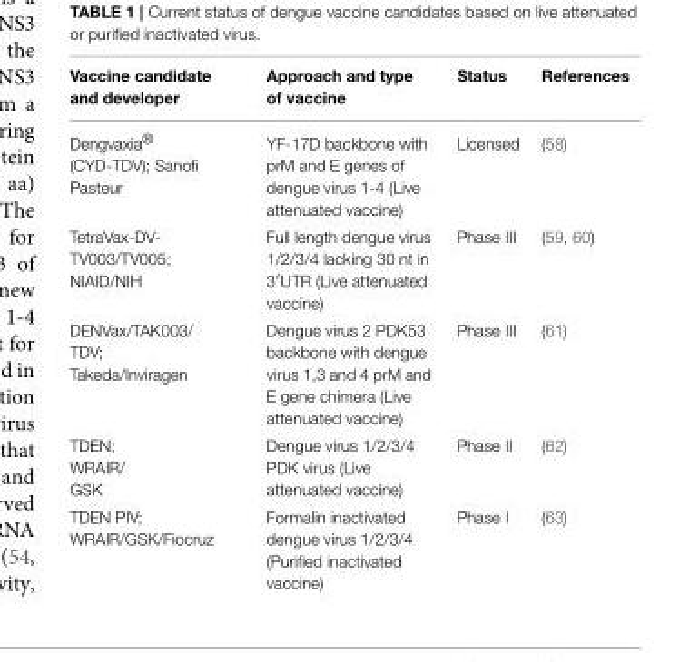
<table><thead><tr><td>Vaccine candidate and developer</td><td>Approach and type of vaccine</td><td>Status</td><td>References</td></tr></thead><tbody><tr><td>Dengvaxia® (CYD-TDV); Sanofi Pasteur</td><td>YF-17D backbone with prM and E genes of dengue virus 1-4 (Live attenuated vaccine)</td><td>Licensed</td><td>(58)</td></tr><tr><td>TetraVax-DV- TV003/TV005; NIAID/NIH</td><td>Full length dengue virus 1/2/3/4 lacking 30 nt in 3′UTR (Live attenuated vaccine)</td><td>Phase III</td><td>(59, 60)</td></tr><tr><td>DENVax/TAK003/ TDV; Takeda/Inviragen</td><td>Dengue virus 2 PDK53 backbone with dengue virus 1,3 and 4 prM and E gene chimera (Live attenuated vaccine)</td><td>Phase III</td><td>(61)</td></tr><tr><td>TDEN; WRAIR/ GSK</td><td>Dengue virus 1/2/3/4 PDK virus (Live attenuated vaccine)</td><td>Phase II</td><td>(62)</td></tr><tr><td>TDEN PIV; WRAIR/GSK/Fiocruz</td><td>Formalin inactivated dengue virus 1/2/3/4 (Purified inactivated vaccine)</td><td>Phase I</td><td>(63)</td></tr></tbody></table>